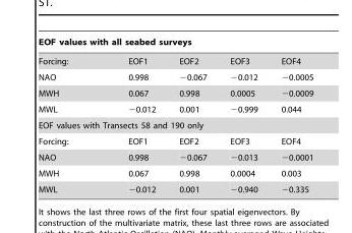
<table><thead><tr><td colspan="5">EOF values with all seabed surveys</td></tr><tr><td>Forcing:</td><td>EOF1</td><td>EOF2</td><td>EOF3</td><td>EOF4</td></tr></thead><tbody><tr><td>NAO</td><td>0.998</td><td>−0.067</td><td>−0.012</td><td>−0.0005</td></tr><tr><td>MWH</td><td>0.067</td><td>0.998</td><td>0.0005</td><td>−0.0009</td></tr><tr><td>MWL</td><td>−0.012</td><td>0.001</td><td>−0.999</td><td>0.044</td></tr><tr><td colspan="5">EOF values with Transects 58 and 190 only</td></tr><tr><td>Forcing:</td><td>EOF1</td><td>EOF2</td><td>EOF3</td><td>EOF4</td></tr><tr><td>NAO</td><td>0.998</td><td>−0.067</td><td>−0.013</td><td>−0.0001</td></tr><tr><td>MWH</td><td>0.067</td><td>0.998</td><td>0.0004</td><td>0.003</td></tr><tr><td>MWL</td><td>−0.012</td><td>0.001</td><td>−0.940</td><td>−0.335</td></tr></tbody></table>